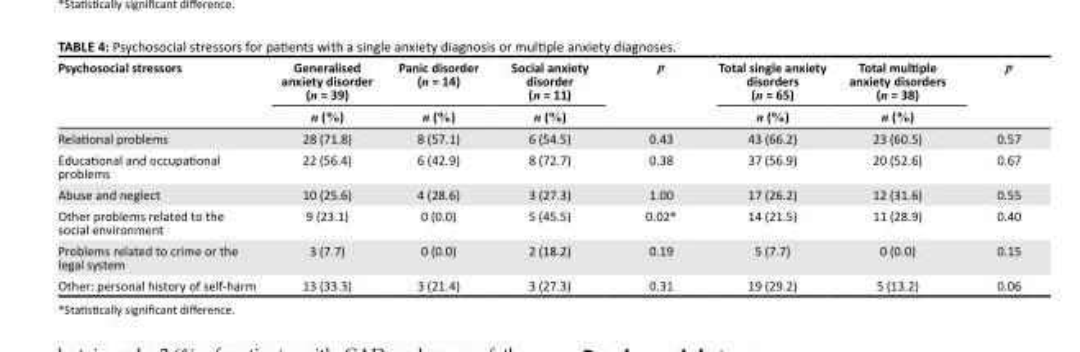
<table><thead><tr><td rowspan="2">Psychosocial stressors</td><td rowspan="2">Generalised anxiety disorder (n = 39) n (%)</td><td rowspan="2">Panic disorder (n = 14) n (%)</td><td rowspan="2">Social anxiety disorder (n = 11) n (%)</td><td rowspan="2">p</td><td rowspan="2">Total single anxiety disorders (n = 65) n (%)</td><td rowspan="2">Total multiple anxiety disorders (n = 38) n (%)</td><td rowspan="2">p</td></tr><tr></tr></thead><tbody><tr><td>Relational problems</td><td>28 (71.8)</td><td>8 (57.1)</td><td>6 (54.5)</td><td>0.43</td><td>43 (66.2)</td><td>23 (60.5)</td><td>0.57</td></tr><tr><td>Educational and occupational problems</td><td>22 (56.4)</td><td>6 (42.9)</td><td>8 (72.7)</td><td>0.38</td><td>37 (56.9)</td><td>20 (52.6)</td><td>0.67</td></tr><tr><td>Abuse and neglect</td><td>10 (25.6)</td><td>4 (28.6)</td><td>3 (27.3)</td><td>1.00</td><td>17 (26.2)</td><td>12 (31.6)</td><td>0.55</td></tr><tr><td>Other problems related to the social environment</td><td>9 (23.1)</td><td>0 (0.0)</td><td>5 (45.5)</td><td>0.02*</td><td>14 (21.5)</td><td>11 (28.9)</td><td>0.40</td></tr><tr><td>Problems related to crime or the legal system</td><td>3 (7.7)</td><td>0 (0.0)</td><td>2 (18.2)</td><td>0.19</td><td>5 (7.7)</td><td>0 (0.0)</td><td>0.15</td></tr><tr><td>Other: personal history of self-harm</td><td>13 (33.3)</td><td>3 (21.4)</td><td>3 (27.3)</td><td>0.31</td><td>19 (29.2)</td><td>5 (13.2)</td><td>0.06</td></tr></tbody></table>